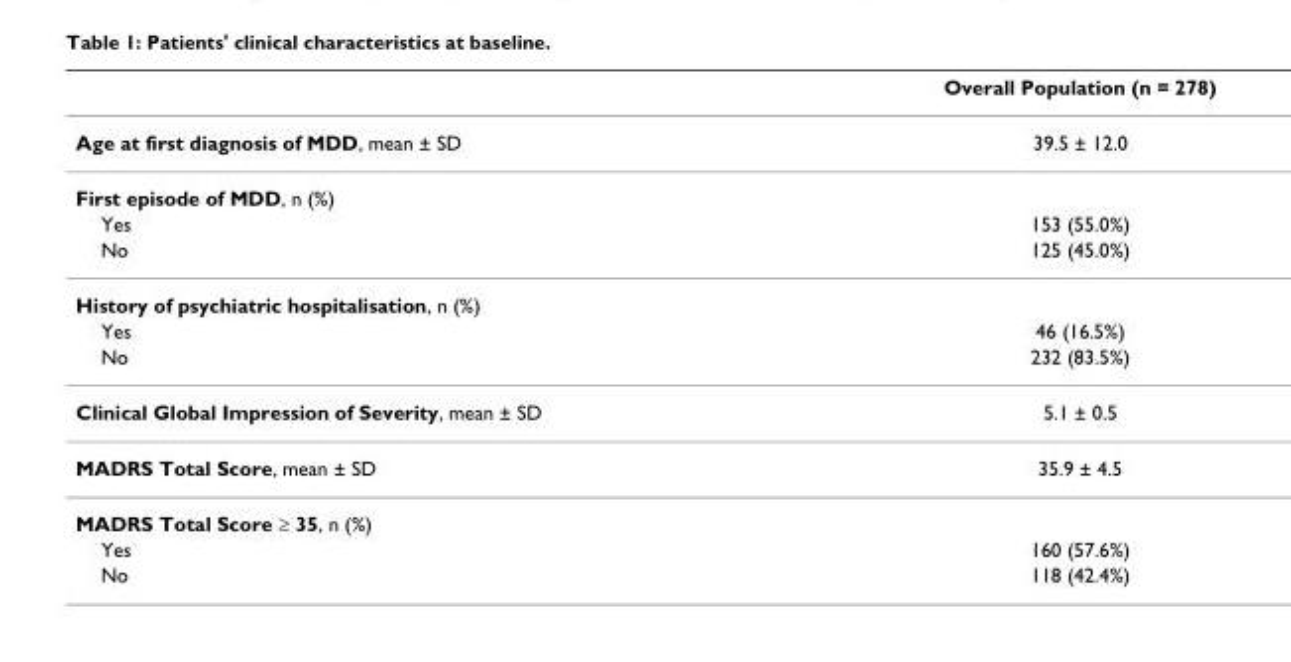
<table><thead><tr><td></td><td>Overall Population (n = 278)</td></tr></thead><tbody><tr><td>Age at first diagnosis of MDD, mean ± SD</td><td>39.5 ± 12.0</td></tr><tr><td colspan="2">First episode of MDD, n (%)</td></tr><tr><td>Yes</td><td>153 (55.0%)</td></tr><tr><td>No</td><td>125 (45.0%)</td></tr><tr><td colspan="2">History of psychiatric hospitalisation, n (%)</td></tr><tr><td>Yes</td><td>46 (16.5%)</td></tr><tr><td>No</td><td>232 (83.5%)</td></tr><tr><td>Clinical Global Impression of Severity, mean ± SD</td><td>5.1 ± 0.5</td></tr><tr><td>MADRS Total Score, mean ± SD</td><td>35.9 ± 4.5</td></tr><tr><td colspan="2">MADRS Total Score ≥ 35, n (%)</td></tr><tr><td>Yes</td><td>160 (57.6%)</td></tr><tr><td>No</td><td>118 (42.4%)</td></tr></tbody></table>